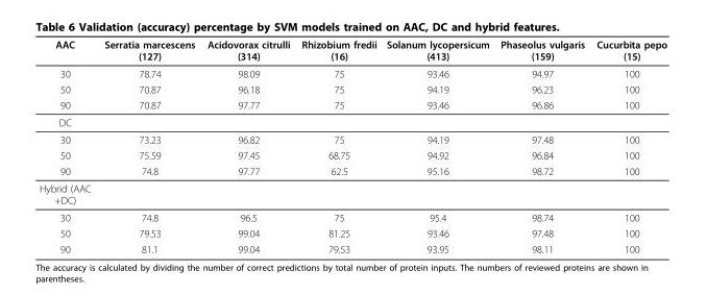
<table><thead><tr><td>AAC</td><td>Serratia marcescens (127)</td><td>Acidovorax citrulli (314)</td><td>Rhizobium fredii (16)</td><td>Solanum lycopersicum (413)</td><td>Phaseolus vulgaris (159)</td><td>Cucurbita pepo (15)</td></tr></thead><tbody><tr><td>30</td><td>78.74</td><td>98.09</td><td>75</td><td>93.46</td><td>94.97</td><td>100</td></tr><tr><td>50</td><td>70.87</td><td>96.18</td><td>75</td><td>94.19</td><td>96.23</td><td>100</td></tr><tr><td>90</td><td>70.87</td><td>97.77</td><td>75</td><td>93.46</td><td>96.86</td><td>100</td></tr><tr><td colspan="7">DC</td></tr><tr><td>30</td><td>73.23</td><td>96.82</td><td>75</td><td>94.19</td><td>97.48</td><td>100</td></tr><tr><td>50</td><td>75.59</td><td>97.45</td><td>68.75</td><td>94.92</td><td>96.84</td><td>100</td></tr><tr><td>90</td><td>74.8</td><td>97.77</td><td>62.5</td><td>95.16</td><td>98.72</td><td>100</td></tr><tr><td colspan="7">Hybrid (AAC +DC)</td></tr><tr><td>30</td><td>74.8</td><td>96.5</td><td>75</td><td>95.4</td><td>98.74</td><td>100</td></tr><tr><td>50</td><td>79.53</td><td>99.04</td><td>81.25</td><td>93.46</td><td>97.48</td><td>100</td></tr><tr><td>90</td><td>81.1</td><td>99.04</td><td>79.53</td><td>93.95</td><td>98.11</td><td>100</td></tr></tbody></table>